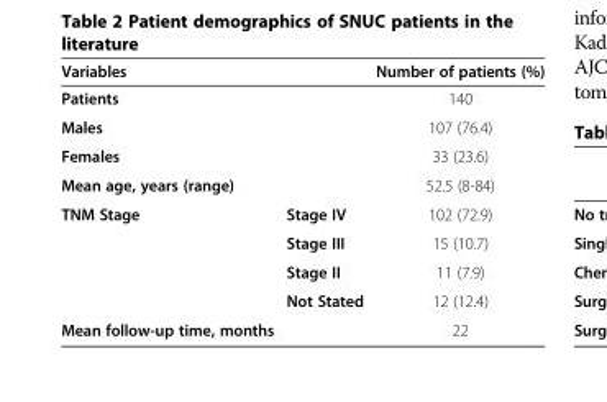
<table><thead><tr><td>Variables</td><td></td><td>Number of patients (%)</td></tr></thead><tbody><tr><td colspan="2">Patients</td><td>140</td></tr><tr><td>Males</td><td></td><td>107 (76.4)</td></tr><tr><td colspan="2">Females</td><td>33 (23.6)</td></tr><tr><td>Mean age, years (range)</td><td></td><td>52.5 (8-84)</td></tr><tr><td rowspan="4">TNM Stage</td><td>Stage IV</td><td>102 (72.9)</td></tr><tr><td>Stage III</td><td>15 (10.7)</td></tr><tr><td>Stage II</td><td>11 (7.9)</td></tr><tr><td>Not Stated</td><td>12 (12.4)</td></tr><tr><td>Mean follow-up time, months</td><td></td><td>22</td></tr></tbody></table>